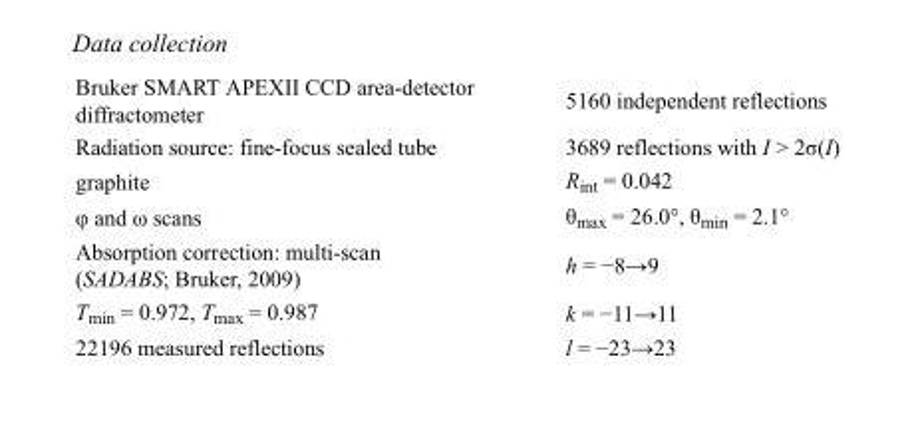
<table><tbody><tr><td>Bruker SMART APEXII CCD area-detector diffractometer</td><td>5160 independent reflections</td></tr><tr><td>Radiation source: fine-focus sealed tube</td><td>3689 reflections with I &gt; 2σ(I)</td></tr><tr><td>graphite</td><td>R<sub>int</sub> = 0.042</td></tr><tr><td>φ and ω scans</td><td>θ<sub>max</sub> = 26.0°, θ<sub>min</sub> = 2.1°</td></tr><tr><td>Absorption correction: multi-scan (SADABS; Bruker, 2009)</td><td>h = −8→9</td></tr><tr><td>T<sub>min</sub> = 0.972, T<sub>max</sub> = 0.987</td><td>k = −11→11</td></tr><tr><td>22196 measured reflections</td><td>l = −23→23</td></tr></tbody></table>